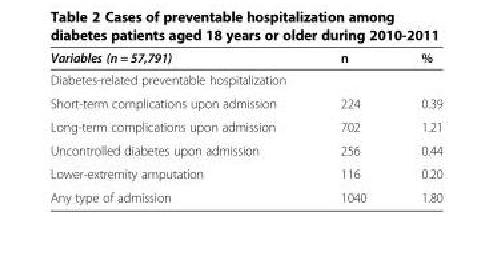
<table><thead><tr><td>Variables (n = 57,791)</td><td>n</td><td>%</td></tr></thead><tbody><tr><td colspan="3">Diabetes-related preventable hospitalization</td></tr><tr><td>Short-term complications upon admission</td><td>224</td><td>0.39</td></tr><tr><td>Long-term complications upon admission</td><td>702</td><td>1.21</td></tr><tr><td>Uncontrolled diabetes upon admission</td><td>256</td><td>0.44</td></tr><tr><td>Lower-extremity amputation</td><td>116</td><td>0.20</td></tr><tr><td>Any type of admission</td><td>1040</td><td>1.80</td></tr></tbody></table>